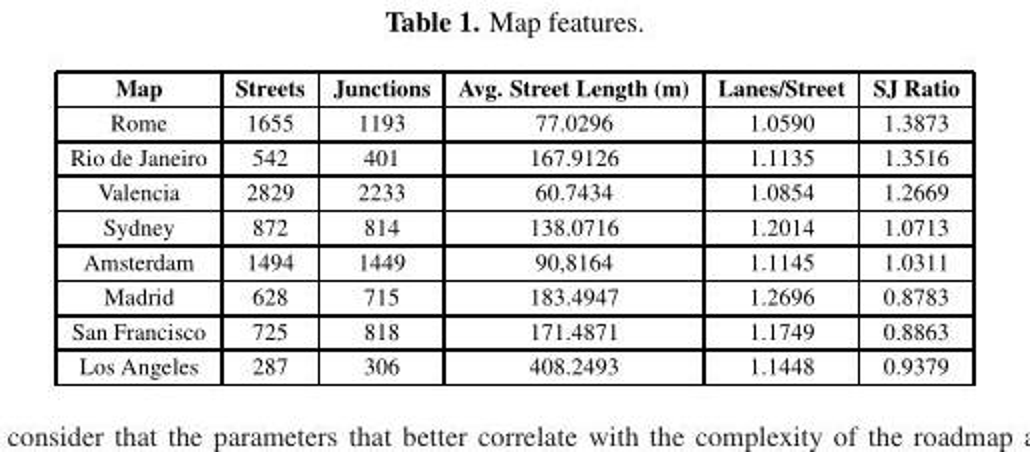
<table><thead><tr><td>Map</td><td>Streets</td><td>Junctions</td><td>Avg. Street Length (m)</td><td>Lanes/Street</td><td>SJ Ratio</td></tr></thead><tbody><tr><td>Rome</td><td>1655</td><td>1193</td><td>77.0296</td><td>1.0590</td><td>1.3873</td></tr><tr><td>Rio de Janeiro</td><td>542</td><td>401</td><td>167.9126</td><td>1.1135</td><td>1.3516</td></tr><tr><td>Valencia</td><td>2829</td><td>2233</td><td>60.7434</td><td>1.0854</td><td>1.2669</td></tr><tr><td>Sydney</td><td>872</td><td>814</td><td>138.0716</td><td>1.2014</td><td>1.0713</td></tr><tr><td>Amsterdam</td><td>1494</td><td>1449</td><td>90,8164</td><td>1.1145</td><td>1.0311</td></tr><tr><td>Madrid</td><td>628</td><td>715</td><td>183.4947</td><td>1.2696</td><td>0.8783</td></tr><tr><td>San Francisco</td><td>725</td><td>818</td><td>171.4871</td><td>1.1749</td><td>0.8863</td></tr><tr><td>Los Angeles</td><td>287</td><td>306</td><td>408.2493</td><td>1.1448</td><td>0.9379</td></tr></tbody></table>